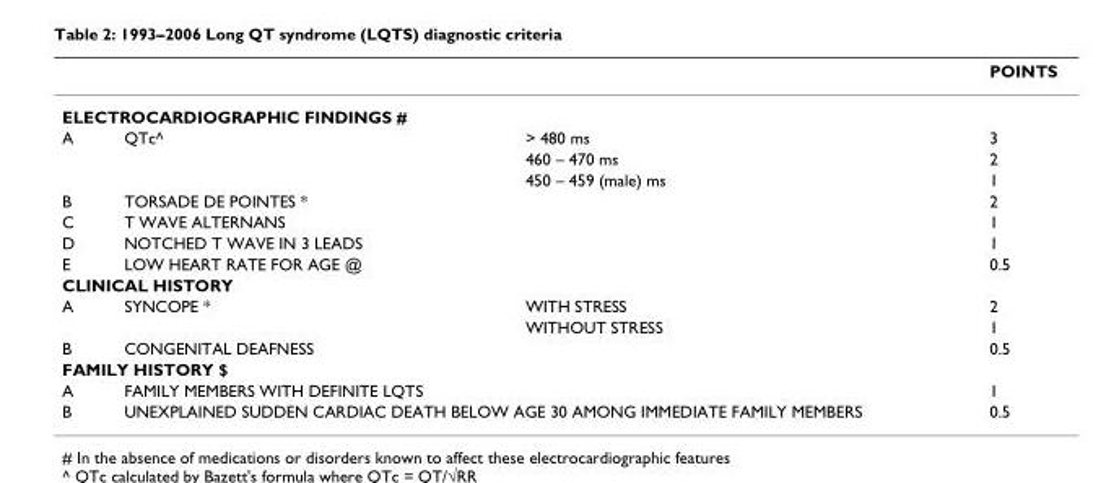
<table><thead><tr><td></td><td></td><td></td><td>POINTS</td></tr></thead><tbody><tr><td colspan="4">ELECTROCARDIOGRAPHIC FINDINGS #</td></tr><tr><td rowspan="3">A</td><td>QTc^</td><td>&gt; 480 ms</td><td>3</td></tr><tr><td></td><td>460 – 470 ms</td><td>2</td></tr><tr><td></td><td>450 – 459 (male) ms</td><td>1</td></tr><tr><td>B</td><td colspan="2">TORSADE DE POINTES *</td><td>2</td></tr><tr><td>C</td><td colspan="2">T WAVE ALTERNANS</td><td>1</td></tr><tr><td>D</td><td colspan="2">NOTCHED T WAVE IN 3 LEADS</td><td>1</td></tr><tr><td>E</td><td colspan="2">LOW HEART RATE FOR AGE @</td><td>0.5</td></tr><tr><td colspan="4">CLINICAL HISTORY</td></tr><tr><td rowspan="2">A</td><td>SYNCOPE *</td><td>WITH STRESS</td><td>2</td></tr><tr><td></td><td>WITHOUT STRESS</td><td>1</td></tr><tr><td>B</td><td colspan="2">CONGENITAL DEAFNESS</td><td>0.5</td></tr><tr><td colspan="4">FAMILY HISTORY $</td></tr><tr><td>A</td><td colspan="2">FAMILY MEMBERS WITH DEFINITE LQTS</td><td>1</td></tr><tr><td>B</td><td colspan="2">UNEXPLAINED SUDDEN CARDIAC DEATH BELOW AGE 30 AMONG IMMEDIATE FAMILY MEMBERS</td><td>0.5</td></tr></tbody></table>